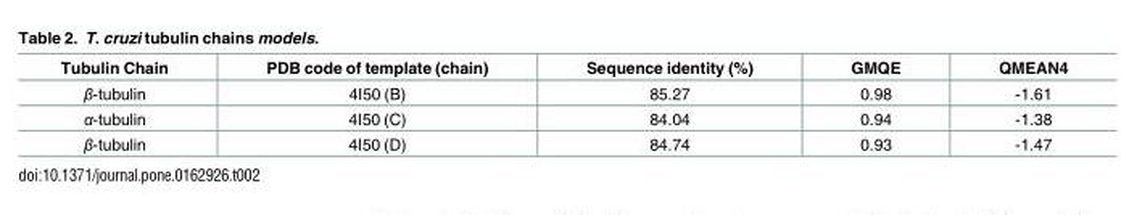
<table><thead><tr><td>Tubulin Chain</td><td>PDB code of template (chain)</td><td>Sequence identity (%)</td><td>GMQE</td><td>QMEAN4</td></tr></thead><tbody><tr><td>β-tubulin</td><td>4I50 (B)</td><td>85.27</td><td>0.98</td><td>-1.61</td></tr><tr><td>α-tubulin</td><td>4I50 (C)</td><td>84.04</td><td>0.94</td><td>-1.38</td></tr><tr><td>β-tubulin</td><td>4I50 (D)</td><td>84.74</td><td>0.93</td><td>-1.47</td></tr></tbody></table>